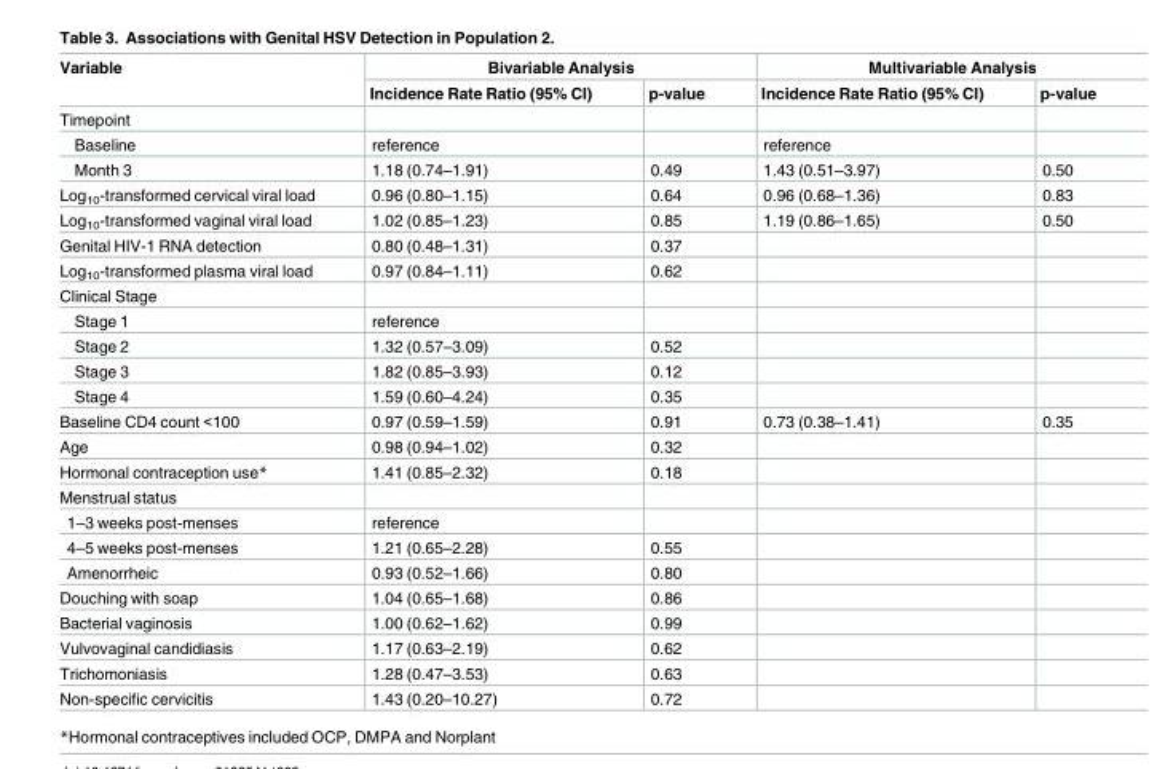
<table><thead><tr><td rowspan="2">Variable</td><td colspan="2">Bivariable Analysis</td><td colspan="2">Multivariable Analysis</td></tr><tr><td>Incidence Rate Ratio (95% CI)</td><td>p-value</td><td>Incidence Rate Ratio (95% CI)</td><td>p-value</td></tr></thead><tbody><tr><td colspan="5">Timepoint</td></tr><tr><td>Baseline</td><td>reference</td><td></td><td>reference</td><td></td></tr><tr><td>Month 3</td><td>1.18 (0.74–1.91)</td><td>0.49</td><td>1.43 (0.51–3.97)</td><td>0.50</td></tr><tr><td>Log<sub>10</sub>-transformed cervical viral load</td><td>0.96 (0.80–1.15)</td><td>0.64</td><td>0.96 (0.68–1.36)</td><td>0.83</td></tr><tr><td>Log<sub>10</sub>-transformed vaginal viral load</td><td>1.02 (0.85–1.23)</td><td>0.85</td><td>1.19 (0.86–1.65)</td><td>0.50</td></tr><tr><td>Genital HIV-1 RNA detection</td><td>0.80 (0.48–1.31)</td><td>0.37</td><td></td><td></td></tr><tr><td>Log<sub>10</sub>-transformed plasma viral load</td><td>0.97 (0.84–1.11)</td><td>0.62</td><td></td><td></td></tr><tr><td colspan="5">Clinical Stage</td></tr><tr><td>Stage 1</td><td>reference</td><td></td><td></td><td></td></tr><tr><td>Stage 2</td><td>1.32 (0.57–3.09)</td><td>0.52</td><td></td><td></td></tr><tr><td>Stage 3</td><td>1.82 (0.85–3.93)</td><td>0.12</td><td></td><td></td></tr><tr><td>Stage 4</td><td>1.59 (0.60–4.24)</td><td>0.35</td><td></td><td></td></tr><tr><td>Baseline CD4 count &lt;100</td><td>0.97 (0.59–1.59)</td><td>0.91</td><td>0.73 (0.38–1.41)</td><td>0.35</td></tr><tr><td>Age</td><td>0.98 (0.94–1.02)</td><td>0.32</td><td></td><td></td></tr><tr><td>Hormonal contraception use*</td><td>1.41 (0.85–2.32)</td><td>0.18</td><td></td><td></td></tr><tr><td colspan="5">Menstrual status</td></tr><tr><td>1–3 weeks post-menses</td><td>reference</td><td></td><td></td><td></td></tr><tr><td>4–5 weeks post-menses</td><td>1.21 (0.65–2.28)</td><td>0.55</td><td></td><td></td></tr><tr><td>Amenorrheic</td><td>0.93 (0.52–1.66)</td><td>0.80</td><td></td><td></td></tr><tr><td>Douching with soap</td><td>1.04 (0.65–1.68)</td><td>0.86</td><td></td><td></td></tr><tr><td>Bacterial vaginosis</td><td>1.00 (0.62–1.62)</td><td>0.99</td><td></td><td></td></tr><tr><td>Vulvovaginal candidiasis</td><td>1.17 (0.63–2.19)</td><td>0.62</td><td></td><td></td></tr><tr><td>Trichomoniasis</td><td>1.28 (0.47–3.53)</td><td>0.63</td><td></td><td></td></tr><tr><td>Non-specific cervicitis</td><td>1.43 (0.20–10.27)</td><td>0.72</td><td></td><td></td></tr></tbody></table>